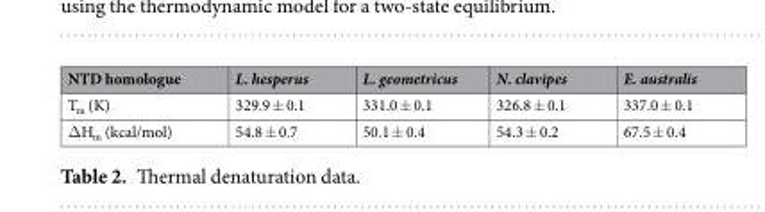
<table><thead><tr><td>NTD homologue</td><td>L. hesperus</td><td>L. geometricus</td><td>N. clavipes</td><td>E. australis</td></tr></thead><tbody><tr><td>T<sub>m</sub> (K)</td><td>329.9 ± 0.1</td><td>331.0 ± 0.1</td><td>326.8 ± 0.1</td><td>337.0 ± 0.1</td></tr><tr><td>ΔH<sub>m</sub> (kcal/mol)</td><td>54.8 ± 0.7</td><td>50.1 ± 0.4</td><td>54.3 ± 0.2</td><td>67.5 ± 0.4</td></tr></tbody></table>